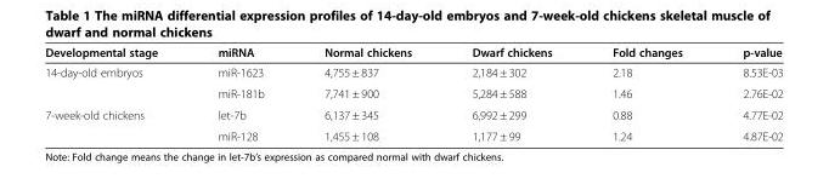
<table><thead><tr><td>Developmental stage</td><td>miRNA</td><td>Normal chickens</td><td>Dwarf chickens</td><td>Fold changes</td><td>p-value</td></tr></thead><tbody><tr><td rowspan="2">14-day-old embryos</td><td>miR-1623</td><td>4,755 ± 837</td><td>2,184 ± 302</td><td>2.18</td><td>8.53E-03</td></tr><tr><td>miR-181b</td><td>7,741 ± 900</td><td>5,284 ± 588</td><td>1.46</td><td>2.76E-02</td></tr><tr><td rowspan="2">7-week-old chickens</td><td>let-7b</td><td>6,137 ± 345</td><td>6,992 ± 299</td><td>0.88</td><td>4.77E-02</td></tr><tr><td>miR-128</td><td>1,455 ± 108</td><td>1,177 ± 99</td><td>1.24</td><td>4.87E-02</td></tr></tbody></table>